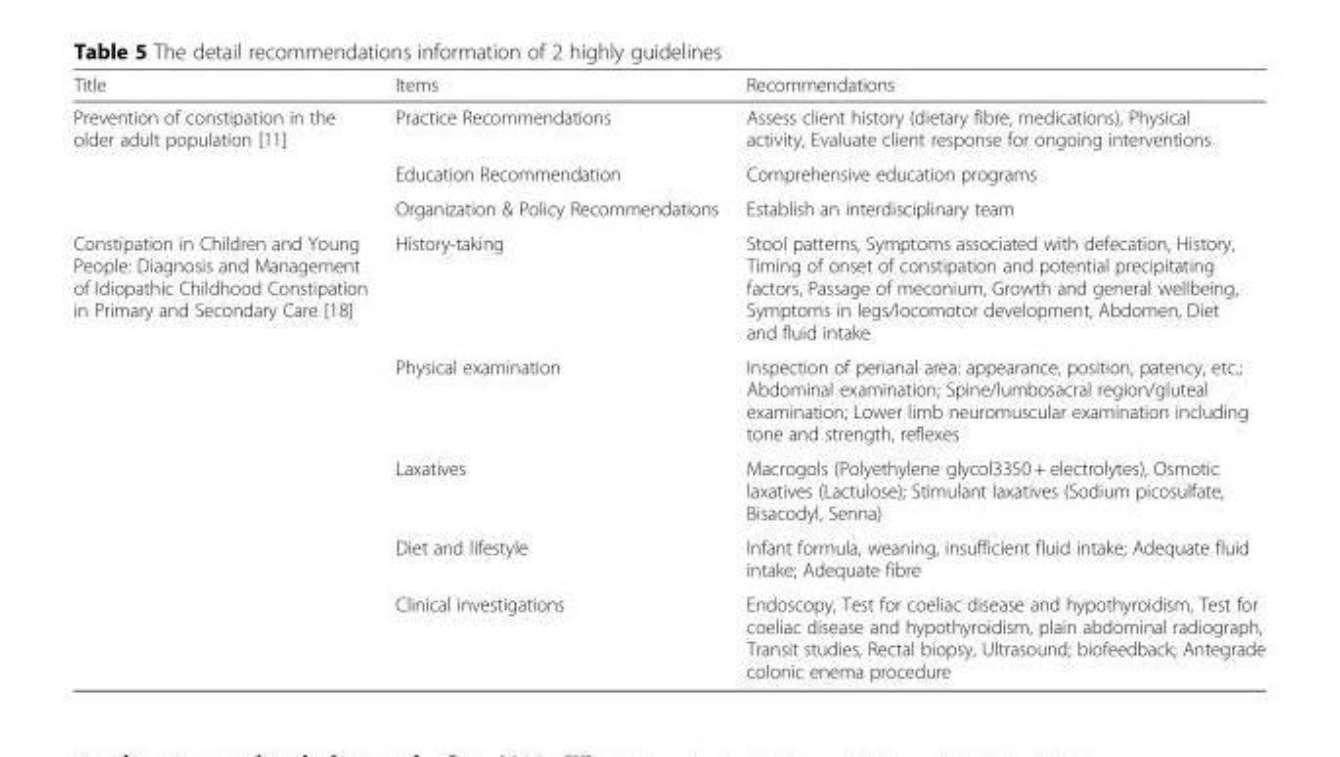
<table><thead><tr><td>Title</td><td>Items</td><td>Recommendations</td></tr></thead><tbody><tr><td rowspan="3">Prevention of constipation in the older adult population [11]</td><td>Practice Recommendations</td><td>Assess client history (dietary fibre, medications), Physical activity, Evaluate client response for ongoing interventions</td></tr><tr><td>Education Recommendation</td><td>Comprehensive education programs</td></tr><tr><td>Organization &amp; Policy Recommendations</td><td>Establish an interdisciplinary team</td></tr><tr><td rowspan="5">Constipation in Children and Young People: Diagnosis and Management of Idiopathic Childhood Constipation in Primary and Secondary Care [18]</td><td>History-taking</td><td>Stool patterns, Symptoms associated with defecation, History, Timing of onset of constipation and potential precipitating factors, Passage of meconium, Growth and general wellbeing, Symptoms in legs/locomotor development, Abdomen, Diet and fluid intake</td></tr><tr><td>Physical examination</td><td>Inspection of perianal area: appearance, position, patency, etc.; Abdominal examination; Spine/lumbosacral region/gluteal examination; Lower limb neuromuscular examination including tone and strength, reflexes</td></tr><tr><td>Laxatives</td><td>Macrogols (Polyethylene glycol3350 + electrolytes), Osmotic laxatives (Lactulose); Stimulant laxatives (Sodium picosulfate, Bisacodyl, Senna)</td></tr><tr><td>Diet and lifestyle</td><td>Infant formula, weaning, insufficient fluid intake; Adequate fluid intake; Adequate fibre</td></tr><tr><td>Clinical investigations</td><td>Endoscopy, Test for coeliac disease and hypothyroidism, Test for coeliac disease and hypothyroidism, plain abdominal radiograph, Transit studies, Rectal biopsy, Ultrasound; biofeedback; Antegrade colonic enema procedure</td></tr></tbody></table>